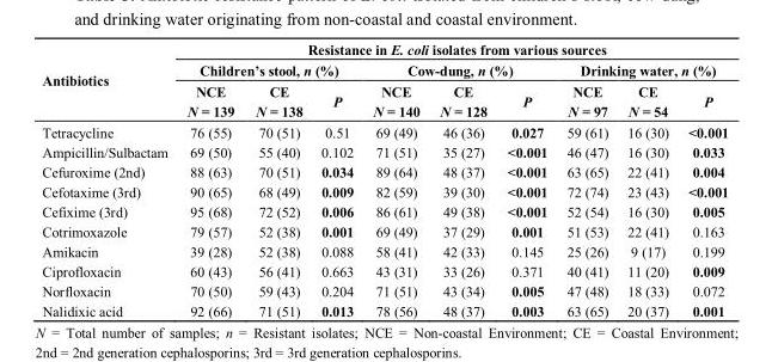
<table><thead><tr><td rowspan="3">Antibiotics</td><td colspan="9">Resistance in E. coli isolates from various sources</td></tr><tr><td colspan="3">Children’s stool, n (%)</td><td colspan="3">Cow-dung, n (%)</td><td colspan="3">Drinking water, n (%)</td></tr><tr><td>NCE N = 139</td><td>CE N = 138</td><td>P</td><td>NCE N = 140</td><td>CE N = 128</td><td>P</td><td>NCE N = 97</td><td>CE N = 54</td><td>P</td></tr></thead><tbody><tr><td>Tetracycline</td><td>76 (55)</td><td>70 (51)</td><td>0.51</td><td>69 (49)</td><td>46 (36)</td><td>0.027</td><td>59 (61)</td><td>16 (30)</td><td>&lt;0.001</td></tr><tr><td>Ampicillin/Sulbactam</td><td>69 (50)</td><td>55 (40)</td><td>0.102</td><td>71 (51)</td><td>35 (27)</td><td>&lt;0.001</td><td>46 (47)</td><td>16 (30)</td><td>0.033</td></tr><tr><td>Cefuroxime (2nd)</td><td>88 (63)</td><td>70 (51)</td><td>0.034</td><td>89 (64)</td><td>48 (37)</td><td>&lt;0.001</td><td>63 (65)</td><td>22 (41)</td><td>0.004</td></tr><tr><td>Cefotaxime (3rd)</td><td>90 (65)</td><td>68 (49)</td><td>0.009</td><td>82 (59)</td><td>39 (30)</td><td>&lt;0.001</td><td>72 (74)</td><td>23 (43)</td><td>&lt;0.001</td></tr><tr><td>Cefixime (3rd)</td><td>95 (68)</td><td>72 (52)</td><td>0.006</td><td>86 (61)</td><td>49 (38)</td><td>&lt;0.001</td><td>52 (54)</td><td>16 (30)</td><td>0.005</td></tr><tr><td>Cotrimoxazole</td><td>79 (57)</td><td>52 (38)</td><td>0.001</td><td>69 (49)</td><td>37 (29)</td><td>0.001</td><td>51 (53)</td><td>22 (41)</td><td>0.163</td></tr><tr><td>Amikacin</td><td>39 (28)</td><td>52 (38)</td><td>0.088</td><td>58 (41)</td><td>42 (33)</td><td>0.145</td><td>25 (26)</td><td>9 (17)</td><td>0.199</td></tr><tr><td>Ciprofloxacin</td><td>60 (43)</td><td>56 (41)</td><td>0.663</td><td>43 (31)</td><td>33 (26)</td><td>0.371</td><td>40 (41)</td><td>11 (20)</td><td>0.009</td></tr><tr><td>Norfloxacin</td><td>70 (50)</td><td>59 (43)</td><td>0.204</td><td>71 (51)</td><td>43 (34)</td><td>0.005</td><td>47 (48)</td><td>18 (33)</td><td>0.072</td></tr><tr><td>Nalidixic acid</td><td>92 (66)</td><td>71 (51)</td><td>0.013</td><td>78 (56)</td><td>48 (37)</td><td>0.003</td><td>63 (65)</td><td>20 (37)</td><td>0.001</td></tr></tbody></table>